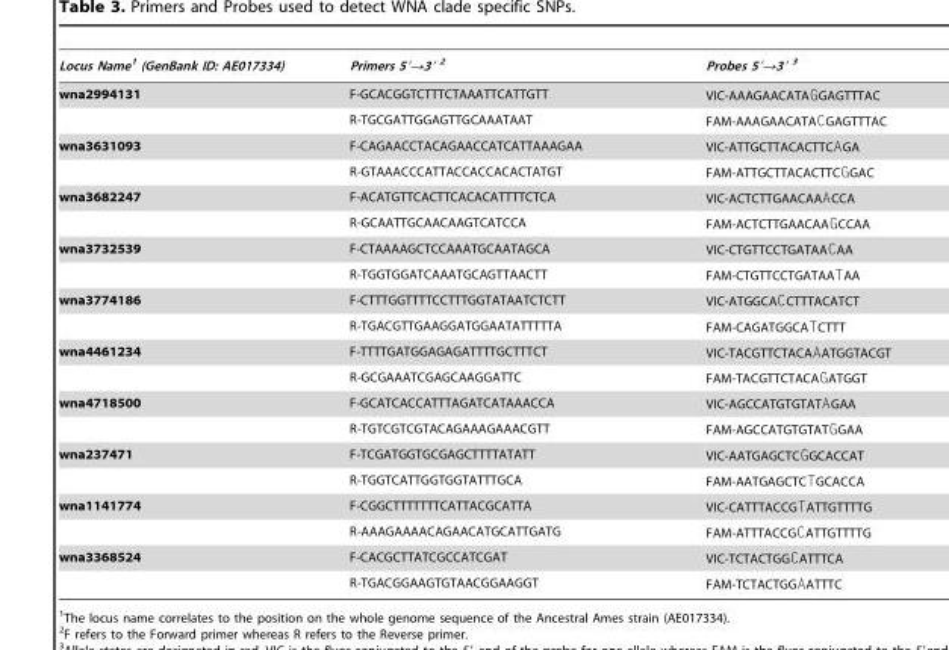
<table><thead><tr><td>Locus Name1 (GenBank ID: AE017334)</td><td>Primers 5′→3′ 2</td><td>Probes 5′→3′ 3</td></tr></thead><tbody><tr><td rowspan="2">wna2994131</td><td>F-GCACGGTCTTTCTAAATTCATTGTT</td><td>VIC-AAAGAACATAGGAGTTTAC</td></tr><tr><td>R-TGCGATTGGAGTTGCAAATAAT</td><td>FAM-AAAGAACATACGAGTTTAC</td></tr><tr><td rowspan="2">wna3631093</td><td>F-CAGAACCTACAGAACCATCATTAAAGAA</td><td>VIC-ATTGCTTACACTTCAGA</td></tr><tr><td>R-GTAAACCCATTACCACCACACTATGT</td><td>FAM-ATTGCTTACACTTCGGAC</td></tr><tr><td rowspan="2">wna3682247</td><td>F-ACATGTTCACTTCACACATTTTCTCA</td><td>VIC-ACTCTTGAACAAACCA</td></tr><tr><td>R-GCAATTGCAACAAGTCATCCA</td><td>FAM-ACTCTTGAACAAGCCAA</td></tr><tr><td rowspan="2">wna3732539</td><td>F-CTAAAAGCTCCAAATGCAATAGCA</td><td>VIC-CTGTTCCTGATAACAA</td></tr><tr><td>R-TGGTGGATCAAATGCAGTTAACTT</td><td>FAM-CTGTTCCTGATAATAA</td></tr><tr><td rowspan="2">wna3774186</td><td>F-CTTTGGTTTTCCTTTGGTATAATCTCTT</td><td>VIC-ATGGCACCTTTACATCT</td></tr><tr><td>R-TGACGTTGAAGGATGGAATATTTTTA</td><td>FAM-CAGATGGCATCTTT</td></tr><tr><td rowspan="2">wna4461234</td><td>F-TTTTGATGGAGAGATTTTGCTTTCT</td><td>VIC-TACGTTCTACAAATGGTACGT</td></tr><tr><td>R-GCGAAATCGAGCAAGGATTC</td><td>FAM-TACGTTCTACAGATGGT</td></tr><tr><td rowspan="2">wna4718500</td><td>F-GCATCACCATTTAGATCATAAACCA</td><td>VIC-AGCCATGTGTATAGAA</td></tr><tr><td>R-TGTCGTCGTACAGAAAGAAACGTT</td><td>FAM-AGCCATGTGTATGGAA</td></tr><tr><td rowspan="2">wna237471</td><td>F-TCGATGGTGCGAGCTTTTATATT</td><td>VIC-AATGAGCTCGGCACCAT</td></tr><tr><td>R-TGGTCATTGGTGGTATTTGCA</td><td>FAM-AATGAGCTCTGCACCA</td></tr><tr><td rowspan="2">wna1141774</td><td>F-CGGCTTTTTTTCATTACGCATTA</td><td>VIC-CATTTACCGTATTGTTTTG</td></tr><tr><td>R-AAAGAAAACAGAACATGCATTGATG</td><td>FAM-ATTTACCGCATTGTTTTG</td></tr><tr><td rowspan="2">wna3368524</td><td>F-CACGCTTATCGCCATCGAT</td><td>VIC-TCTACTGGCATTTCA</td></tr><tr><td>R-TGACGGAAGTGTAACGGAAGGT</td><td>FAM-TCTACTGGAATTTC</td></tr></tbody></table>